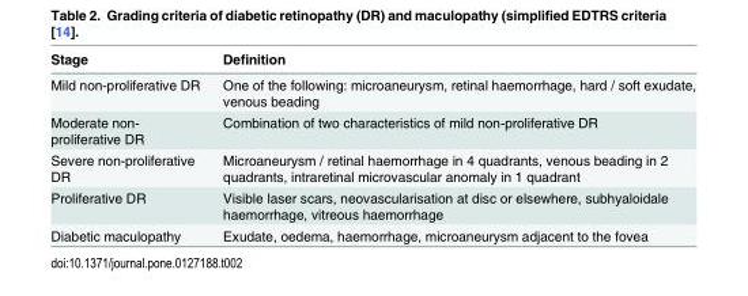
<table><thead><tr><td>Stage</td><td>Definition</td></tr></thead><tbody><tr><td>Mild non-proliferative DR</td><td>One of the following: microaneurysm, retinal haemorrhage, hard / soft exudate, venous beading</td></tr><tr><td>Moderate non- proliferative DR</td><td>Combination of two characteristics of mild non-proliferative DR</td></tr><tr><td>Severe non-proliferative DR</td><td>Microaneurysm / retinal haemorrhage in 4 quadrants, venous beading in 2 quadrants, intraretinal microvascular anomaly in 1 quadrant</td></tr><tr><td>Proliferative DR</td><td>Visible laser scars, neovascularisation at disc or elsewhere, subhyaloidale haemorrhage, vitreous haemorrhage</td></tr><tr><td>Diabetic maculopathy</td><td>Exudate, oedema, haemorrhage, microaneurysm adjacent to the fovea</td></tr></tbody></table>